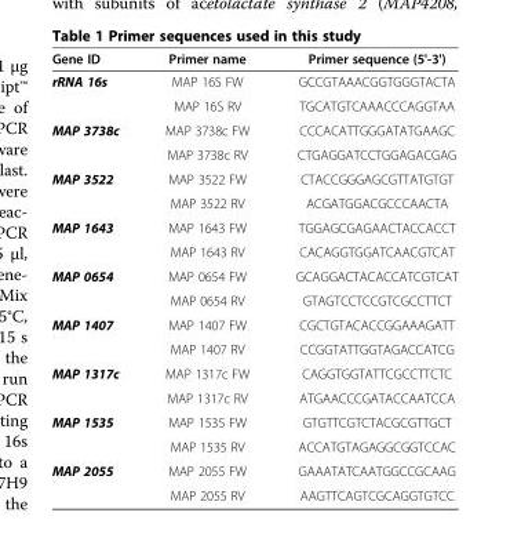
<table><thead><tr><td>Gene ID</td><td>Primer name</td><td>Primer sequence (5&#x27;-3&#x27;)</td></tr></thead><tbody><tr><td rowspan="2">rRNA 16s</td><td>MAP 16S FW</td><td>GCCGTAAACGGTGGGTACTA</td></tr><tr><td>MAP 16S RV</td><td>TGCATGTCAAACCCAGGTAA</td></tr><tr><td rowspan="2">MAP 3738c</td><td>MAP 3738c FW</td><td>CCCACATTGGGATATGAAGC</td></tr><tr><td>MAP 3738c RV</td><td>CTGAGGATCCTGGAGACGAG</td></tr><tr><td rowspan="2">MAP 3522</td><td>MAP 3522 FW</td><td>CTACCGGGAGCGTTATGTGT</td></tr><tr><td>MAP 3522 RV</td><td>ACGATGGACGCCCAACTA</td></tr><tr><td rowspan="2">MAP 1643</td><td>MAP 1643 FW</td><td>TGGAGCGAGAACTACCACCT</td></tr><tr><td>MAP 1643 RV</td><td>CACAGGTGGATCAACGTCAT</td></tr><tr><td rowspan="2">MAP 0654</td><td>MAP 0654 FW</td><td>GCAGGACTACACCATCGTCAT</td></tr><tr><td>MAP 0654 RV</td><td>GTAGTCCTCCGTCGCCTTCT</td></tr><tr><td rowspan="2">MAP 1407</td><td>MAP 1407 FW</td><td>CGCTGTACACCGGAAAGATT</td></tr><tr><td>MAP 1407 RV</td><td>CCGGTATTGGTAGACCATCG</td></tr><tr><td rowspan="2">MAP 1317c</td><td>MAP 1317c FW</td><td>CAGGTGGTATTCGCCTTCTC</td></tr><tr><td>MAP 1317c RV</td><td>ATGAACCCGATACCAATCCA</td></tr><tr><td rowspan="2">MAP 1535</td><td>MAP 1535 FW</td><td>GTGTTCGTCTACGCGTTGCT</td></tr><tr><td>MAP 1535 RV</td><td>ACCATGTAGAGGCGGTCCAC</td></tr><tr><td rowspan="2">MAP 2055</td><td>MAP 2055 FW</td><td>GAAATATCAATGGCCGCAAG</td></tr><tr><td>MAP 2055 RV</td><td>AAGTTCAGTCGCAGGTGTCC</td></tr></tbody></table>